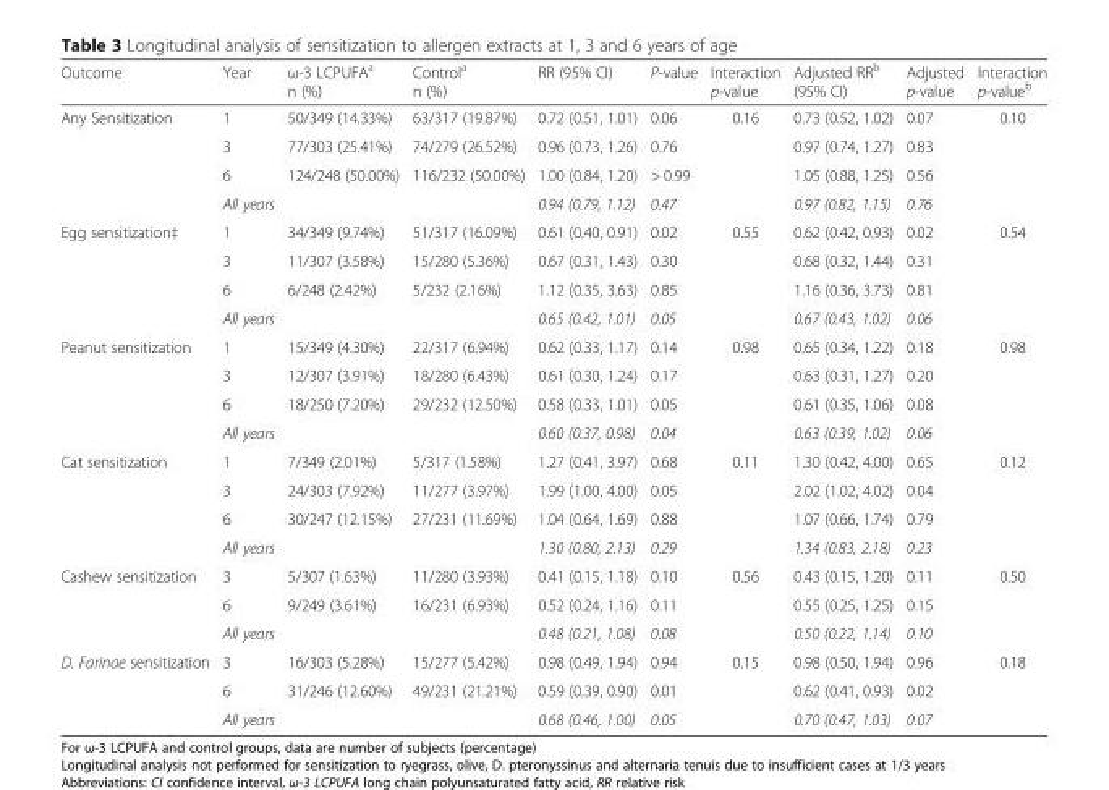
<table><thead><tr><td>Outcome</td><td>Year</td><td>ω-3 LCPUFA<sup>a</sup> n (%)</td><td>Control<sup>a</sup> n (%)</td><td>RR (95% CI)</td><td>P-value</td><td>Interaction p-value</td><td>Adjusted RR<sup>b</sup> (95% CI)</td><td>Adjusted p-value</td><td>Interaction p-value<sup>b</sup></td></tr></thead><tbody><tr><td rowspan="4">Any Sensitization</td><td>1</td><td>50/349 (14.33%)</td><td>63/317 (19.87%)</td><td>0.72 (0.51, 1.01)</td><td>0.06</td><td>0.16</td><td>0.73 (0.52, 1.02)</td><td>0.07</td><td>0.10</td></tr><tr><td>3</td><td>77/303 (25.41%)</td><td>74/279 (26.52%)</td><td>0.96 (0.73, 1.26)</td><td>0.76</td><td></td><td>0.97 (0.74, 1.27)</td><td>0.83</td><td></td></tr><tr><td>6</td><td>124/248 (50.00%)</td><td>116/232 (50.00%)</td><td>1.00 (0.84, 1.20)</td><td>&gt; 0.99</td><td></td><td>1.05 (0.88, 1.25)</td><td>0.56</td><td></td></tr><tr><td>All years</td><td></td><td></td><td>0.94 (0.79, 1.12)</td><td>0.47</td><td></td><td>0.97 (0.82, 1.15)</td><td>0.76</td><td></td></tr><tr><td rowspan="4">Egg sensitization‡</td><td>1</td><td>34/349 (9.74%)</td><td>51/317 (16.09%)</td><td>0.61 (0.40, 0.91)</td><td>0.02</td><td>0.55</td><td>0.62 (0.42, 0.93)</td><td>0.02</td><td>0.54</td></tr><tr><td>3</td><td>11/307 (3.58%)</td><td>15/280 (5.36%)</td><td>0.67 (0.31, 1.43)</td><td>0.30</td><td></td><td>0.68 (0.32, 1.44)</td><td>0.31</td><td></td></tr><tr><td>6</td><td>6/248 (2.42%)</td><td>5/232 (2.16%)</td><td>1.12 (0.35, 3.63)</td><td>0.85</td><td></td><td>1.16 (0.36, 3.73)</td><td>0.81</td><td></td></tr><tr><td>All years</td><td></td><td></td><td>0.65 (0.42, 1.01)</td><td>0.05</td><td></td><td>0.67 (0.43, 1.02)</td><td>0.06</td><td></td></tr><tr><td rowspan="4">Peanut sensitization</td><td>1</td><td>15/349 (4.30%)</td><td>22/317 (6.94%)</td><td>0.62 (0.33, 1.17)</td><td>0.14</td><td>0.98</td><td>0.65 (0.34, 1.22)</td><td>0.18</td><td>0.98</td></tr><tr><td>3</td><td>12/307 (3.91%)</td><td>18/280 (6.43%)</td><td>0.61 (0.30, 1.24)</td><td>0.17</td><td></td><td>0.63 (0.31, 1.27)</td><td>0.20</td><td></td></tr><tr><td>6</td><td>18/250 (7.20%)</td><td>29/232 (12.50%)</td><td>0.58 (0.33, 1.01)</td><td>0.05</td><td></td><td>0.61 (0.35, 1.06)</td><td>0.08</td><td></td></tr><tr><td>All years</td><td></td><td></td><td>0.60 (0.37, 0.98)</td><td>0.04</td><td></td><td>0.63 (0.39, 1.02)</td><td>0.06</td><td></td></tr><tr><td rowspan="4">Cat sensitization</td><td>1</td><td>7/349 (2.01%)</td><td>5/317 (1.58%)</td><td>1.27 (0.41, 3.97)</td><td>0.68</td><td>0.11</td><td>1.30 (0.42, 4.00)</td><td>0.65</td><td>0.12</td></tr><tr><td>3</td><td>24/303 (7.92%)</td><td>11/277 (3.97%)</td><td>1.99 (1.00, 4.00)</td><td>0.05</td><td></td><td>2.02 (1.02, 4.02)</td><td>0.04</td><td></td></tr><tr><td>6</td><td>30/247 (12.15%)</td><td>27/231 (11.69%)</td><td>1.04 (0.64, 1.69)</td><td>0.88</td><td></td><td>1.07 (0.66, 1.74)</td><td>0.79</td><td></td></tr><tr><td>All years</td><td></td><td></td><td>1.30 (0.80, 2.13)</td><td>0.29</td><td></td><td>1.34 (0.83, 2.18)</td><td>0.23</td><td></td></tr><tr><td rowspan="3">Cashew sensitization</td><td>3</td><td>5/307 (1.63%)</td><td>11/280 (3.93%)</td><td>0.41 (0.15, 1.18)</td><td>0.10</td><td>0.56</td><td>0.43 (0.15, 1.20)</td><td>0.11</td><td>0.50</td></tr><tr><td>6</td><td>9/249 (3.61%)</td><td>16/231 (6.93%)</td><td>0.52 (0.24, 1.16)</td><td>0.11</td><td></td><td>0.55 (0.25, 1.25)</td><td>0.15</td><td></td></tr><tr><td>All years</td><td></td><td></td><td>0.48 (0.21, 1.08)</td><td>0.08</td><td></td><td>0.50 (0.22, 1.14)</td><td>0.10</td><td></td></tr><tr><td rowspan="3">D. Farinae sensitization</td><td>3</td><td>16/303 (5.28%)</td><td>15/277 (5.42%)</td><td>0.98 (0.49, 1.94)</td><td>0.94</td><td>0.15</td><td>0.98 (0.50, 1.94)</td><td>0.96</td><td>0.18</td></tr><tr><td>6</td><td>31/246 (12.60%)</td><td>49/231 (21.21%)</td><td>0.59 (0.39, 0.90)</td><td>0.01</td><td></td><td>0.62 (0.41, 0.93)</td><td>0.02</td><td></td></tr><tr><td>All years</td><td></td><td></td><td>0.68 (0.46, 1.00)</td><td>0.05</td><td></td><td>0.70 (0.47, 1.03)</td><td>0.07</td><td></td></tr></tbody></table>